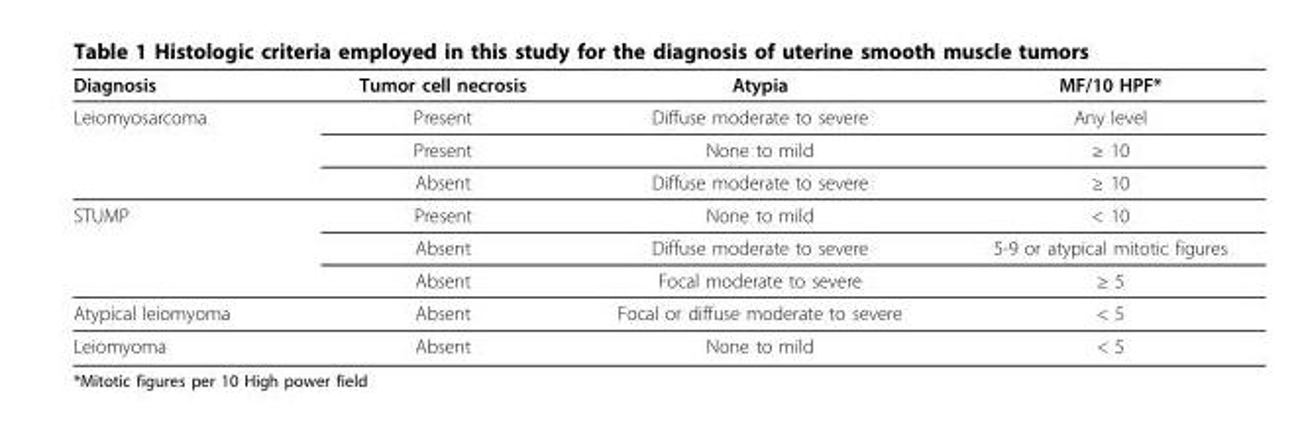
<table><thead><tr><td>Diagnosis</td><td>Tumor cell necrosis</td><td>Atypia</td><td>MF/10 HPF*</td></tr></thead><tbody><tr><td rowspan="3">Leiomyosarcoma</td><td>Present</td><td>Diffuse moderate to severe</td><td>Any level</td></tr><tr><td>Present</td><td>None to mild</td><td>≥ 10</td></tr><tr><td>Absent</td><td>Diffuse moderate to severe</td><td>≥ 10</td></tr><tr><td rowspan="3">STUMP</td><td>Present</td><td>None to mild</td><td>&lt; 10</td></tr><tr><td>Absent</td><td>Diffuse moderate to severe</td><td>5-9 or atypical mitotic figures</td></tr><tr><td>Absent</td><td>Focal moderate to severe</td><td>≥ 5</td></tr><tr><td>Atypical leiomyoma</td><td>Absent</td><td>Focal or diffuse moderate to severe</td><td>&lt; 5</td></tr><tr><td>Leiomyoma</td><td>Absent</td><td>None to mild</td><td>&lt; 5</td></tr></tbody></table>